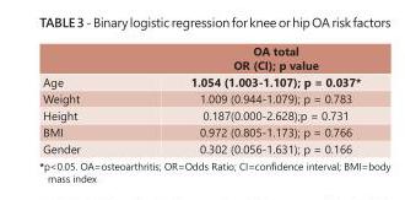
<table><thead><tr><td></td><td>OA total OR (CI); p value</td></tr></thead><tbody><tr><td>Age</td><td>1.054 (1.003-1.107); p = 0.037*</td></tr><tr><td>Weight</td><td>1.009 (0.944-1.079); p = 0.783</td></tr><tr><td>Height</td><td>0.187(0.000-2.628);p = 0.731</td></tr><tr><td>BMI</td><td>0.972 (0.805-1.173); p = 0.766</td></tr><tr><td>Gender</td><td>0.302 (0.056-1.631); p = 0.166</td></tr></tbody></table>